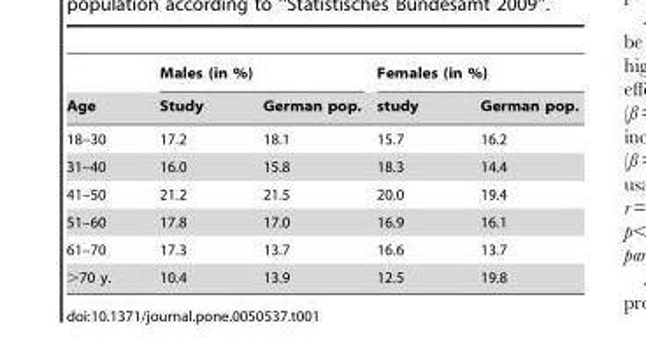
<table><thead><tr><td rowspan="2">Age</td><td colspan="2">Males (in %)</td><td colspan="2">Females (in %)</td></tr><tr><td>Study</td><td>German pop.</td><td>study</td><td>German pop.</td></tr></thead><tbody><tr><td>18–30</td><td>17.2</td><td>18.1</td><td>15.7</td><td>16.2</td></tr><tr><td>31–40</td><td>16.0</td><td>15.8</td><td>18.3</td><td>14.4</td></tr><tr><td>41–50</td><td>21.2</td><td>21.5</td><td>20.0</td><td>19.4</td></tr><tr><td>51–60</td><td>17.8</td><td>17.0</td><td>16.9</td><td>16.1</td></tr><tr><td>61–70</td><td>17.3</td><td>13.7</td><td>16.6</td><td>13.7</td></tr><tr><td>&gt;70 y.</td><td>10.4</td><td>13.9</td><td>12.5</td><td>19.8</td></tr></tbody></table>